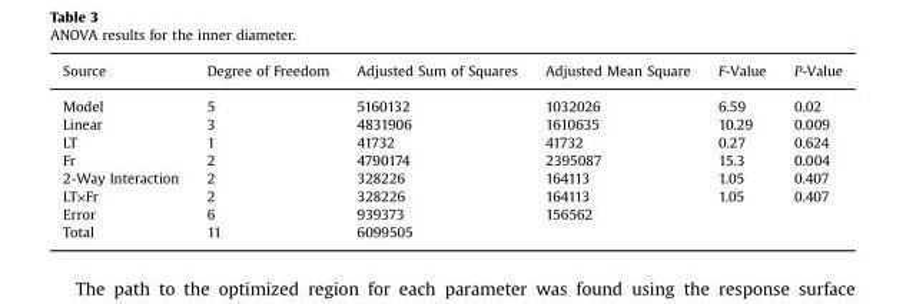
<table><thead><tr><td>Source</td><td>Degree of Freedom</td><td>Adjusted Sum of Squares</td><td>Adjusted Mean Square</td><td>F-Value</td><td>P-Value</td></tr></thead><tbody><tr><td>Model</td><td>5</td><td>5160132</td><td>1032026</td><td>6.59</td><td>0.02</td></tr><tr><td>Linear</td><td>3</td><td>4831906</td><td>1610635</td><td>10.29</td><td>0.009</td></tr><tr><td>LT</td><td>1</td><td>41732</td><td>41732</td><td>0.27</td><td>0.624</td></tr><tr><td>Fr</td><td>2</td><td>4790174</td><td>2395087</td><td>15.3</td><td>0.004</td></tr><tr><td>2-Way Interaction</td><td>2</td><td>328226</td><td>164113</td><td>1.05</td><td>0.407</td></tr><tr><td>LT×Fr</td><td>2</td><td>328226</td><td>164113</td><td>1.05</td><td>0.407</td></tr><tr><td>Error</td><td>6</td><td>939373</td><td>156562</td><td></td><td></td></tr><tr><td>Total</td><td>11</td><td>6099505</td><td></td><td></td><td></td></tr></tbody></table>